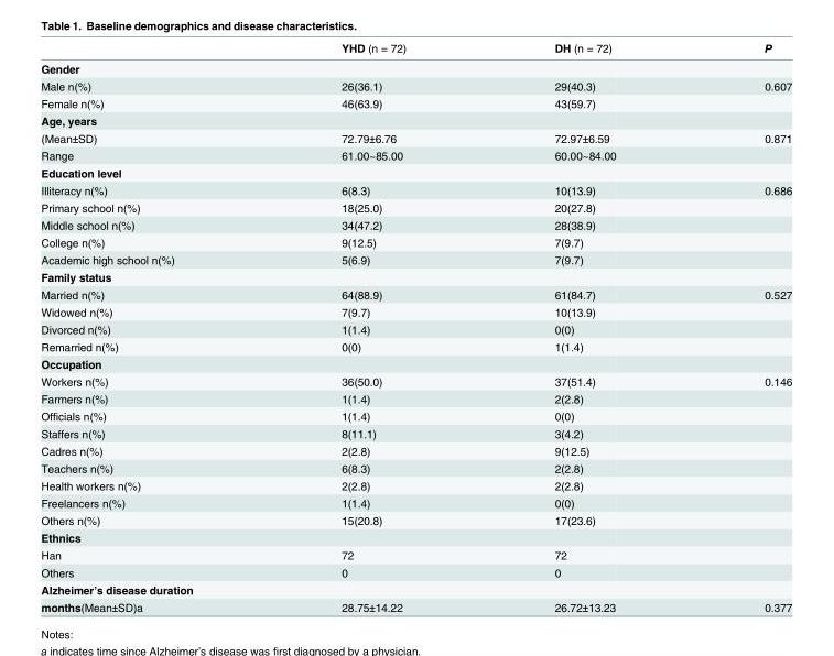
<table><thead><tr><td></td><td>YHD (n = 72)</td><td>DH (n = 72)</td><td>P</td></tr></thead><tbody><tr><td colspan="4">Gender</td></tr><tr><td>Male n(%)</td><td>26(36.1)</td><td>29(40.3)</td><td>0.607</td></tr><tr><td>Female n(%)</td><td>46(63.9)</td><td>43(59.7)</td><td></td></tr><tr><td colspan="4">Age, years</td></tr><tr><td>(Mean±SD)</td><td>72.79±6.76</td><td>72.97±6.59</td><td>0.871</td></tr><tr><td>Range</td><td>61.00~85.00</td><td>60.00~84.00</td><td></td></tr><tr><td colspan="4">Education level</td></tr><tr><td>Illiteracy n(%)</td><td>6(8.3)</td><td>10(13.9)</td><td>0.686</td></tr><tr><td>Primary school n(%)</td><td>18(25.0)</td><td>20(27.8)</td><td></td></tr><tr><td>Middle school n(%)</td><td>34(47.2)</td><td>28(38.9)</td><td></td></tr><tr><td>College n(%)</td><td>9(12.5)</td><td>7(9.7)</td><td></td></tr><tr><td>Academic high school n(%)</td><td>5(6.9)</td><td>7(9.7)</td><td></td></tr><tr><td colspan="4">Family status</td></tr><tr><td>Married n(%)</td><td>64(88.9)</td><td>61(84.7)</td><td>0.527</td></tr><tr><td>Widowed n(%)</td><td>7(9.7)</td><td>10(13.9)</td><td></td></tr><tr><td>Divorced n(%)</td><td>1(1.4)</td><td>0(0)</td><td></td></tr><tr><td>Remarried n(%)</td><td>0(0)</td><td>1(1.4)</td><td></td></tr><tr><td colspan="4">Occupation</td></tr><tr><td>Workers n(%)</td><td>36(50.0)</td><td>37(51.4)</td><td>0.146</td></tr><tr><td>Farmers n(%)</td><td>1(1.4)</td><td>2(2.8)</td><td></td></tr><tr><td>Officials n(%)</td><td>1(1.4)</td><td>0(0)</td><td></td></tr><tr><td>Staffers n(%)</td><td>8(11.1)</td><td>3(4.2)</td><td></td></tr><tr><td>Cadres n(%)</td><td>2(2.8)</td><td>9(12.5)</td><td></td></tr><tr><td>Teachers n(%)</td><td>6(8.3)</td><td>2(2.8)</td><td></td></tr><tr><td>Health workers n(%)</td><td>2(2.8)</td><td>2(2.8)</td><td></td></tr><tr><td>Freelancers n(%)</td><td>1(1.4)</td><td>0(0)</td><td></td></tr><tr><td>Others n(%)</td><td>15(20.8)</td><td>17(23.6)</td><td></td></tr><tr><td colspan="4">Ethnics</td></tr><tr><td>Han</td><td>72</td><td>72</td><td></td></tr><tr><td>Others</td><td>0</td><td>0</td><td></td></tr><tr><td colspan="4">Alzheimer’s disease duration</td></tr><tr><td>months(Mean±SD)<sup>a</sup></td><td>28.75±14.22</td><td>26.72±13.23</td><td>0.377</td></tr></tbody></table>